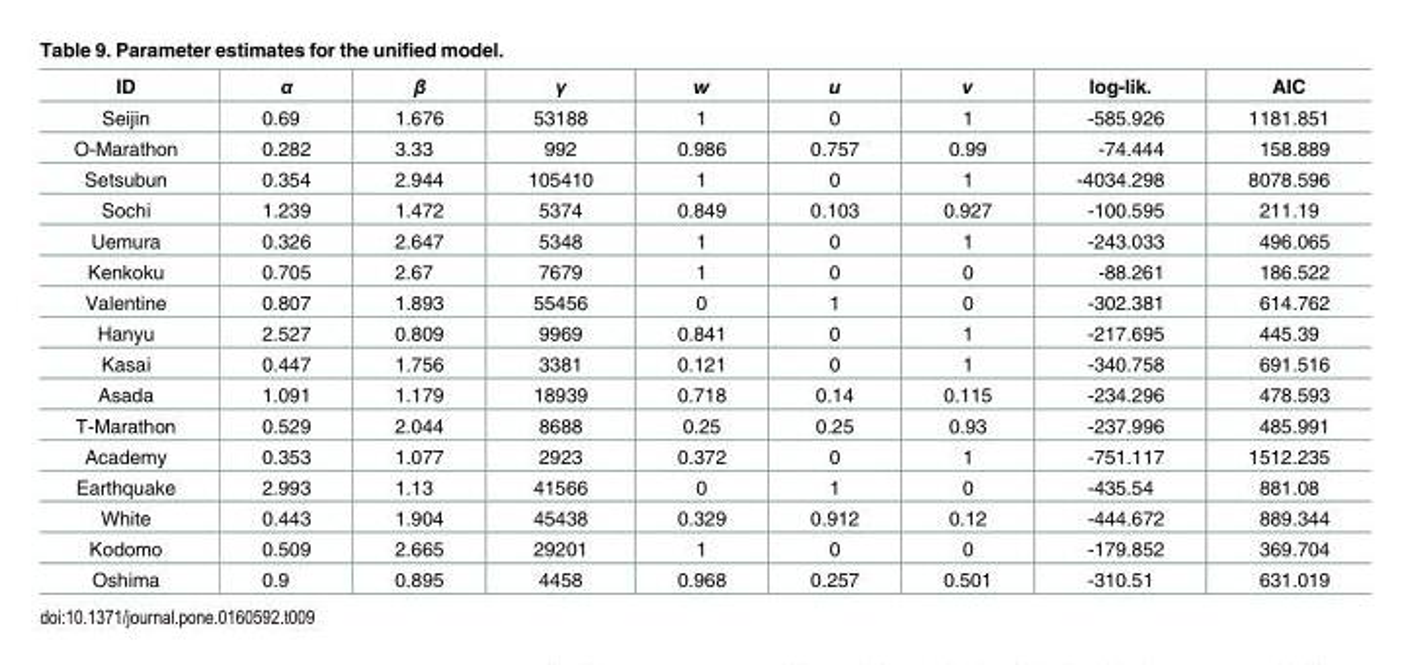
<table><thead><tr><td>ID</td><td>α</td><td>β</td><td>γ</td><td>w</td><td>u</td><td>v</td><td>log-lik.</td><td>AIC</td></tr></thead><tbody><tr><td>Seijin</td><td>0.69</td><td>1.676</td><td>53188</td><td>1</td><td>0</td><td>1</td><td>-585.926</td><td>1181.851</td></tr><tr><td>O-Marathon</td><td>0.282</td><td>3.33</td><td>992</td><td>0.986</td><td>0.757</td><td>0.99</td><td>-74.444</td><td>158.889</td></tr><tr><td>Setsubun</td><td>0.354</td><td>2.944</td><td>105410</td><td>1</td><td>0</td><td>1</td><td>-4034.298</td><td>8078.596</td></tr><tr><td>Sochi</td><td>1.239</td><td>1.472</td><td>5374</td><td>0.849</td><td>0.103</td><td>0.927</td><td>-100.595</td><td>211.19</td></tr><tr><td>Uemura</td><td>0.326</td><td>2.647</td><td>5348</td><td>1</td><td>0</td><td>1</td><td>-243.033</td><td>496.065</td></tr><tr><td>Kenkoku</td><td>0.705</td><td>2.67</td><td>7679</td><td>1</td><td>0</td><td>0</td><td>-88.261</td><td>186.522</td></tr><tr><td>Valentine</td><td>0.807</td><td>1.893</td><td>55456</td><td>0</td><td>1</td><td>0</td><td>-302.381</td><td>614.762</td></tr><tr><td>Hanyu</td><td>2.527</td><td>0.809</td><td>9969</td><td>0.841</td><td>0</td><td>1</td><td>-217.695</td><td>445.39</td></tr><tr><td>Kasai</td><td>0.447</td><td>1.756</td><td>3381</td><td>0.121</td><td>0</td><td>1</td><td>-340.758</td><td>691.516</td></tr><tr><td>Asada</td><td>1.091</td><td>1.179</td><td>18939</td><td>0.718</td><td>0.14</td><td>0.115</td><td>-234.296</td><td>478.593</td></tr><tr><td>T-Marathon</td><td>0.529</td><td>2.044</td><td>8688</td><td>0.25</td><td>0.25</td><td>0.93</td><td>-237.996</td><td>485.991</td></tr><tr><td>Academy</td><td>0.353</td><td>1.077</td><td>2923</td><td>0.372</td><td>0</td><td>1</td><td>-751.117</td><td>1512.235</td></tr><tr><td>Earthquake</td><td>2.993</td><td>1.13</td><td>41566</td><td>0</td><td>1</td><td>0</td><td>-435.54</td><td>881.08</td></tr><tr><td>White</td><td>0.443</td><td>1.904</td><td>45438</td><td>0.329</td><td>0.912</td><td>0.12</td><td>-444.672</td><td>889.344</td></tr><tr><td>Kodomo</td><td>0.509</td><td>2.665</td><td>29201</td><td>1</td><td>0</td><td>0</td><td>-179.852</td><td>369.704</td></tr><tr><td>Oshima</td><td>0.9</td><td>0.895</td><td>4458</td><td>0.968</td><td>0.257</td><td>0.501</td><td>-310.51</td><td>631.019</td></tr></tbody></table>